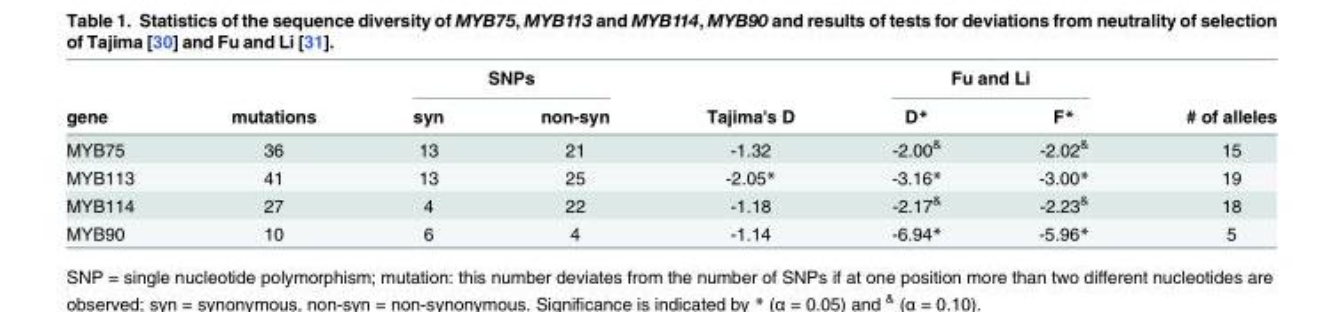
<table><thead><tr><td rowspan="2">gene</td><td rowspan="2">mutations</td><td colspan="2">SNPs</td><td rowspan="2">Tajima&#x27;s D</td><td colspan="2">Fu and Li</td><td rowspan="2"># of alleles</td></tr><tr><td>syn</td><td>non-syn</td><td>D*</td><td>F*</td></tr></thead><tbody><tr><td>MYB75</td><td>36</td><td>13</td><td>21</td><td>-1.32</td><td>-2.00<sup>&amp;</sup></td><td>-2.02<sup>&amp;</sup></td><td>15</td></tr><tr><td>MYB113</td><td>41</td><td>13</td><td>25</td><td>-2.05*</td><td>-3.16*</td><td>-3.00*</td><td>19</td></tr><tr><td>MYB114</td><td>27</td><td>4</td><td>22</td><td>-1.18</td><td>-2.17<sup>&amp;</sup></td><td>-2.23<sup>&amp;</sup></td><td>18</td></tr><tr><td>MYB90</td><td>10</td><td>6</td><td>4</td><td>-1.14</td><td>-6.94*</td><td>-5.96*</td><td>5</td></tr></tbody></table>